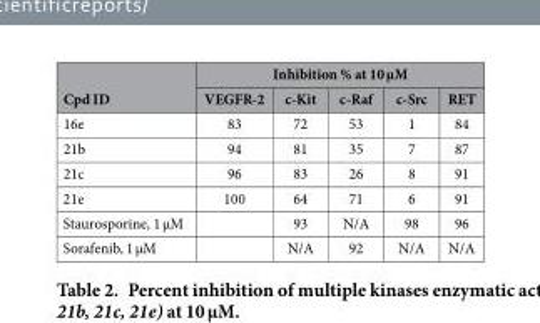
<table><thead><tr><td rowspan="2">Cpd ID</td><td colspan="5">Inhibition % at 10 μM</td></tr><tr><td>VEGFR-2</td><td>c-Kit</td><td>c-Raf</td><td>c-Src</td><td>RET</td></tr></thead><tbody><tr><td>16e</td><td>83</td><td>72</td><td>53</td><td>1</td><td>84</td></tr><tr><td>21b</td><td>94</td><td>81</td><td>35</td><td>7</td><td>87</td></tr><tr><td>21c</td><td>96</td><td>83</td><td>26</td><td>8</td><td>91</td></tr><tr><td>21e</td><td>100</td><td>64</td><td>71</td><td>6</td><td>91</td></tr><tr><td>Staurosporine, 1 μM</td><td></td><td>93</td><td>N/A</td><td>98</td><td>96</td></tr><tr><td>Sorafenib, 1 μM</td><td></td><td>N/A</td><td>92</td><td>N/A</td><td>N/A</td></tr></tbody></table>